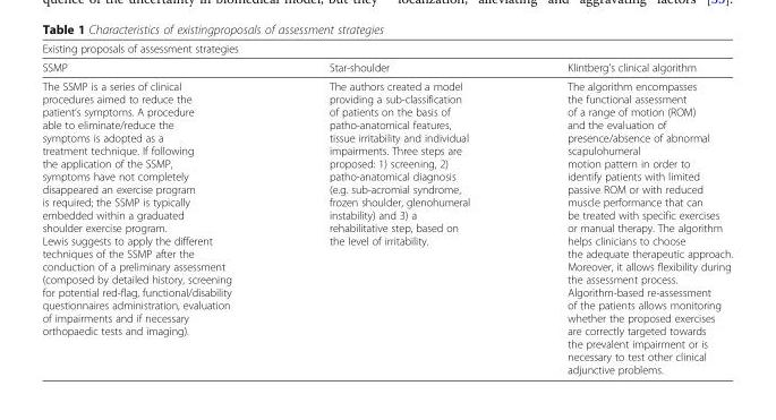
<table><thead><tr><td colspan="3">Existing proposals of assessment strategies</td></tr><tr><td>SSMP</td><td>Star-shoulder</td><td>Klintberg’s clinical algorithm</td></tr></thead><tbody><tr><td>The SSMP is a series of clinical procedures aimed to reduce the patient’s symptoms. A procedure able to eliminate/reduce the symptoms is adopted as a treatment technique. If following the application of the SSMP, symptoms have not completely disappeared an exercise program is required; the SSMP is typically embedded within a graduated shoulder exercise program. Lewis suggests to apply the different techniques of the SSMP after the conduction of a preliminary assessment (composed by detailed history, screening for potential red-flag, functional/disability questionnaires administration, evaluation of impairments and if necessary orthopaedic tests and imaging).</td><td>The authors created a model providing a sub-classification of patients on the basis of patho-anatomical features, tissue irritability and individual impairments. Three steps are proposed: 1) screening, 2) patho-anatomical diagnosis (e.g. sub-acromial syndrome, frozen shoulder, glenohumeral instability) and 3) a rehabilitative step, based on the level of irritability.</td><td>The algorithm encompasses the functional assessment of a range of motion (ROM) and the evaluation of presence/absence of abnormal scapulohumeral motion pattern in order to identify patients with limited passive ROM or with reduced muscle performance that can be treated with specific exercises or manual therapy. The algorithm helps clinicians to choose the adequate therapeutic approach. Moreover, it allows flexibility during the assessment process. Algorithm-based re-assessment of the patients allows monitoring whether the proposed exercises are correctly targeted towards the prevalent impairment or is necessary to test other clinical adjunctive problems.</td></tr></tbody></table>